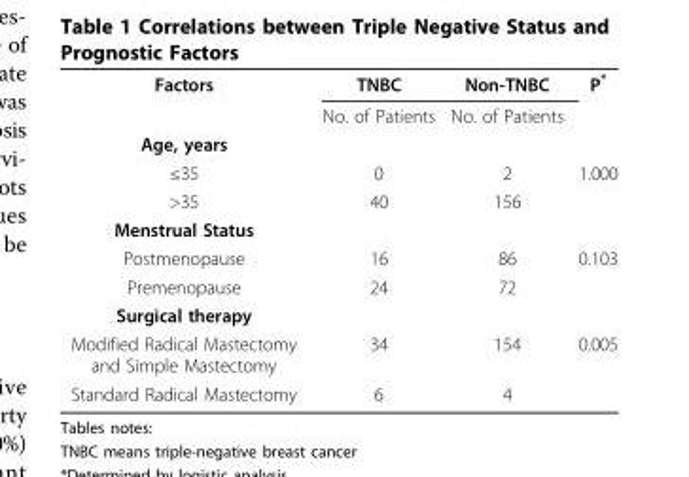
<table><tbody><tr><td rowspan="2">Factors</td><td>TNBC</td><td>Non-TNBC</td><td>P*</td></tr><tr><td>No. of Patients</td><td>No. of Patients</td><td></td></tr><tr><td colspan="4">Age, years</td></tr><tr><td>≤35</td><td>0</td><td>2</td><td>1.000</td></tr><tr><td>&gt;35</td><td>40</td><td>156</td><td></td></tr><tr><td colspan="4">Menstrual Status</td></tr><tr><td>Postmenopause</td><td>16</td><td>86</td><td>0.103</td></tr><tr><td>Premenopause</td><td>24</td><td>72</td><td></td></tr><tr><td colspan="4">Surgical therapy</td></tr><tr><td>Modified Radical Mastectomy and Simple Mastectomy</td><td>34</td><td>154</td><td>0.005</td></tr><tr><td>Standard Radical Mastectomy</td><td>6</td><td>4</td><td></td></tr></tbody></table>